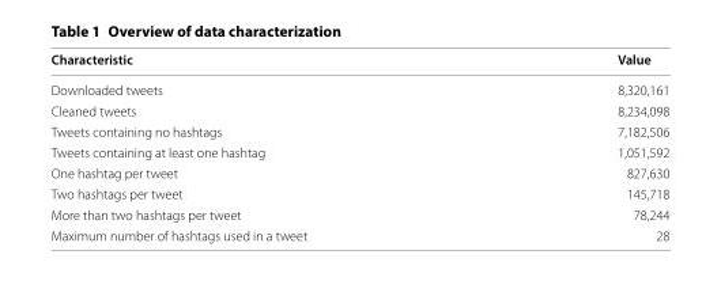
<table><thead><tr><td>Characteristic</td><td>Value</td></tr></thead><tbody><tr><td>Downloaded tweets</td><td>8,320,161</td></tr><tr><td>Cleaned tweets</td><td>8,234,098</td></tr><tr><td>Tweets containing no hashtags</td><td>7,182,506</td></tr><tr><td>Tweets containing at least one hashtag</td><td>1,051,592</td></tr><tr><td>One hashtag per tweet</td><td>827,630</td></tr><tr><td>Two hashtags per tweet</td><td>145,718</td></tr><tr><td>More than two hashtags per tweet</td><td>78,244</td></tr><tr><td>Maximum number of hashtags used in a tweet</td><td>28</td></tr></tbody></table>